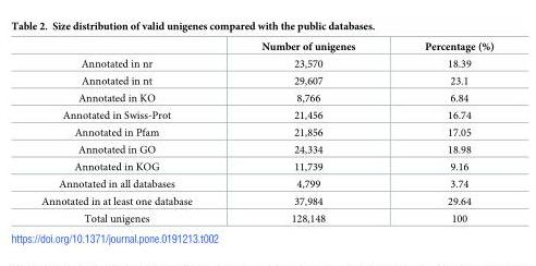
<table><thead><tr><td></td><td>Number of unigenes</td><td>Percentage (%)</td></tr></thead><tbody><tr><td>Annotated in nr</td><td>23,570</td><td>18.39</td></tr><tr><td>Annotated in nt</td><td>29,607</td><td>23.1</td></tr><tr><td>Annotated in KO</td><td>8,766</td><td>6.84</td></tr><tr><td>Annotated in Swiss-Prot</td><td>21,456</td><td>16.74</td></tr><tr><td>Annotated in Pfam</td><td>21,856</td><td>17.05</td></tr><tr><td>Annotated in GO</td><td>24,334</td><td>18.98</td></tr><tr><td>Annotated in KOG</td><td>11,739</td><td>9.16</td></tr><tr><td>Annotated in all databases</td><td>4,799</td><td>3.74</td></tr><tr><td>Annotated in at least one database</td><td>37,984</td><td>29.64</td></tr><tr><td>Total unigenes</td><td>128,148</td><td>100</td></tr></tbody></table>